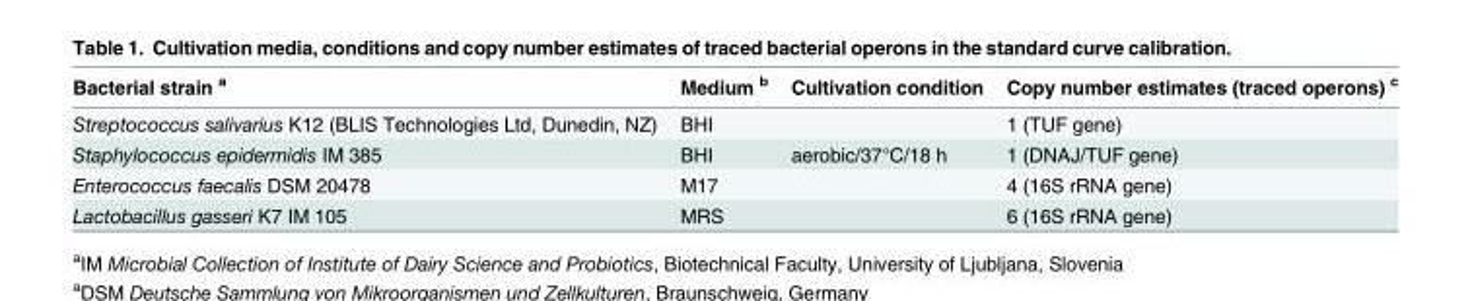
<table><thead><tr><td>Bacterial strain <sup>a</sup></td><td>Medium <sup>b</sup></td><td>Cultivation condition</td><td>Copy number estimates (traced operons) <sup>c</sup></td></tr></thead><tbody><tr><td>Streptococcus salivarius K12 (BLIS Technologies Ltd, Dunedin, NZ)</td><td>BHI</td><td></td><td>1 (TUF gene)</td></tr><tr><td>Staphylococcus epidermidis IM 385</td><td>BHI</td><td>aerobic/37°C/18 h</td><td>1 (DNAJ/TUF gene)</td></tr><tr><td>Enterococcus faecalis DSM 20478</td><td>M17</td><td></td><td>4 (16S rRNA gene)</td></tr><tr><td>Lactobacillus gasseri K7 IM 105</td><td>MRS</td><td></td><td>6 (16S rRNA gene)</td></tr></tbody></table>